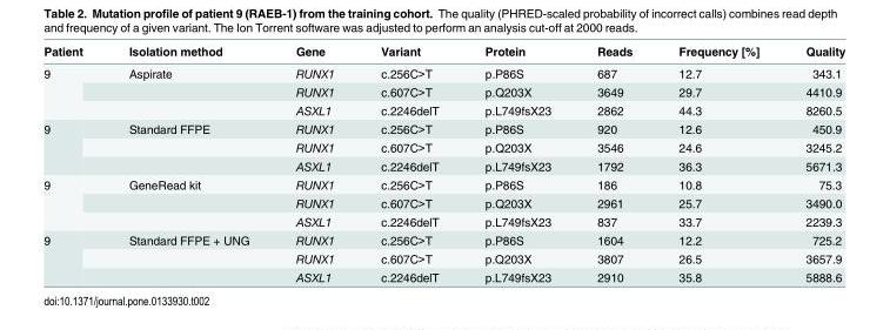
<table><thead><tr><td>Patient</td><td>Isolation method</td><td>Gene</td><td>Variant</td><td>Protein</td><td>Reads</td><td>Frequency [%]</td><td>Quality</td></tr></thead><tbody><tr><td rowspan="3">9</td><td>Aspirate</td><td>RUNX1</td><td>c.256C&gt;T</td><td>p.P86S</td><td>687</td><td>12.7</td><td>343.1</td></tr><tr><td></td><td>RUNX1</td><td>c.607C&gt;T</td><td>p.Q203X</td><td>3649</td><td>29.7</td><td>4410.9</td></tr><tr><td></td><td>ASXL1</td><td>c.2246delT</td><td>p.L749fsX23</td><td>2862</td><td>44.3</td><td>8260.5</td></tr><tr><td rowspan="3">9</td><td>Standard FFPE</td><td>RUNX1</td><td>c.256C&gt;T</td><td>p.P86S</td><td>920</td><td>12.6</td><td>450.9</td></tr><tr><td></td><td>RUNX1</td><td>c.607C&gt;T</td><td>p.Q203X</td><td>3546</td><td>24.6</td><td>3245.2</td></tr><tr><td></td><td>ASXL1</td><td>c.2246delT</td><td>p.L749fsX23</td><td>1792</td><td>36.3</td><td>5671.3</td></tr><tr><td rowspan="3">9</td><td>GeneRead kit</td><td>RUNX1</td><td>c.256C&gt;T</td><td>p.P86S</td><td>186</td><td>10.8</td><td>75.3</td></tr><tr><td></td><td>RUNX1</td><td>c.607C&gt;T</td><td>p.Q203X</td><td>2961</td><td>25.7</td><td>3490.0</td></tr><tr><td></td><td>ASXL1</td><td>c.2246delT</td><td>p.L749fsX23</td><td>837</td><td>33.7</td><td>2239.3</td></tr><tr><td rowspan="3">9</td><td>Standard FFPE + UNG</td><td>RUNX1</td><td>c.256C&gt;T</td><td>p.P86S</td><td>1604</td><td>12.2</td><td>725.2</td></tr><tr><td></td><td>RUNX1</td><td>c.607C&gt;T</td><td>p.Q203X</td><td>3807</td><td>26.5</td><td>3657.9</td></tr><tr><td></td><td>ASXL1</td><td>c.2246delT</td><td>p.L749fsX23</td><td>2910</td><td>35.8</td><td>5888.6</td></tr></tbody></table>